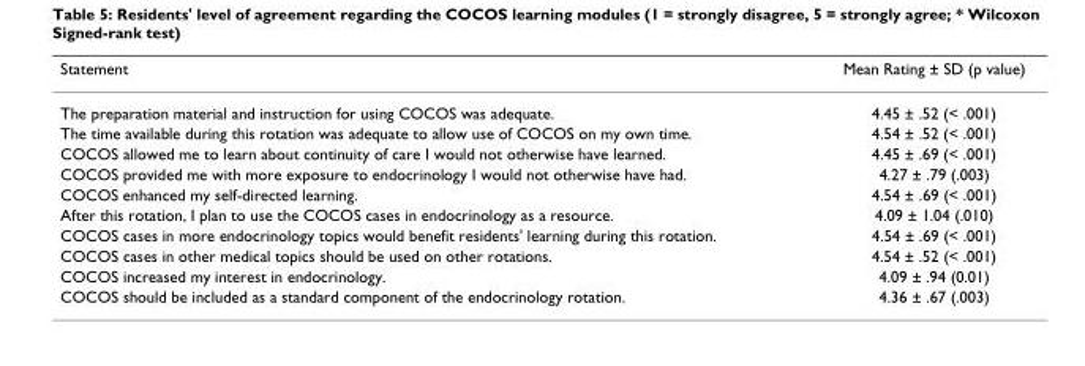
<table><thead><tr><td>Statement</td><td>Mean Rating ± SD (p value)</td></tr></thead><tbody><tr><td>The preparation material and instruction for using COCOS was adequate.</td><td>4.45 ± .52 (&lt; .001)</td></tr><tr><td>The time available during this rotation was adequate to allow use of COCOS on my own time.</td><td>4.54 ± .52 (&lt; .001)</td></tr><tr><td>COCOS allowed me to learn about continuity of care I would not otherwise have learned.</td><td>4.45 ± .69 (&lt; .001)</td></tr><tr><td>COCOS provided me with more exposure to endocrinology I would not otherwise have had.</td><td>4.27 ± .79 (.003)</td></tr><tr><td>COCOS enhanced my self-directed learning.</td><td>4.54 ± .69 (&lt; .001)</td></tr><tr><td>After this rotation, I plan to use the COCOS cases in endocrinology as a resource.</td><td>4.09 ± 1.04 (.010)</td></tr><tr><td>COCOS cases in more endocrinology topics would benefit residents&#x27; learning during this rotation.</td><td>4.54 ± .69 (&lt; .001)</td></tr><tr><td>COCOS cases in other medical topics should be used on other rotations.</td><td>4.54 ± .52 (&lt; .001)</td></tr><tr><td>COCOS increased my interest in endocrinology.</td><td>4.09 ± .94 (0.01)</td></tr><tr><td>COCOS should be included as a standard component of the endocrinology rotation.</td><td>4.36 ± .67 (.003)</td></tr></tbody></table>